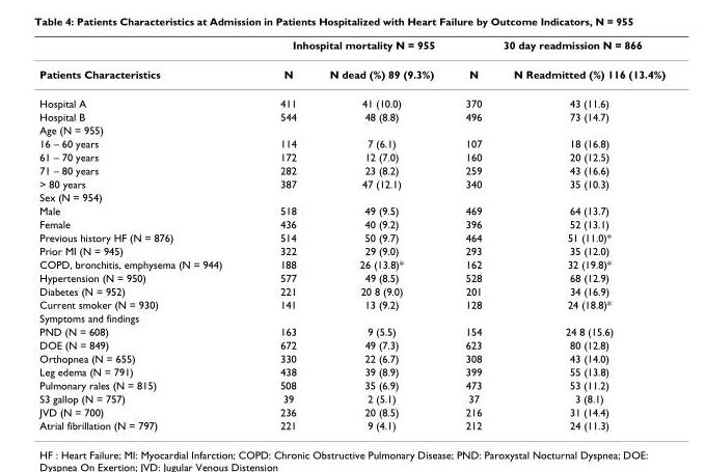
<table><thead><tr><td rowspan="2">Patients Characteristics</td><td colspan="2">Inhospital mortality N = 955</td><td colspan="2">30 day readmission N = 866</td></tr><tr><td>N</td><td>N dead (%) 89 (9.3%)</td><td>N</td><td>N Readmitted (%) 116 (13.4%)</td></tr></thead><tbody><tr><td>Hospital A</td><td>411</td><td>41 (10.0)</td><td>370</td><td>43 (11.6)</td></tr><tr><td>Hospital B</td><td>544</td><td>48 (8.8)</td><td>496</td><td>73 (14.7)</td></tr><tr><td colspan="5">Age (N = 955)</td></tr><tr><td>16 – 60 years</td><td>114</td><td>7 (6.1)</td><td>107</td><td>18 (16.8)</td></tr><tr><td>61 – 70 years</td><td>172</td><td>12 (7.0)</td><td>160</td><td>20 (12.5)</td></tr><tr><td>71 – 80 years</td><td>282</td><td>23 (8.2)</td><td>259</td><td>43 (16.6)</td></tr><tr><td>&gt; 80 years</td><td>387</td><td>47 (12.1)</td><td>340</td><td>35 (10.3)</td></tr><tr><td colspan="5">Sex (N = 954)</td></tr><tr><td>Male</td><td>518</td><td>49 (9.5)</td><td>469</td><td>64 (13.7)</td></tr><tr><td>Female</td><td>436</td><td>40 (9.2)</td><td>396</td><td>52 (13.1)</td></tr><tr><td>Previous history HF (N = 876)</td><td>514</td><td>50 (9.7)</td><td>464</td><td>51 (11.0)*</td></tr><tr><td>Prior MI (N = 945)</td><td>322</td><td>29 (9.0)</td><td>293</td><td>35 (12.0)</td></tr><tr><td>COPD, bronchitis, emphysema (N = 944)</td><td>188</td><td>26 (13.8)*</td><td>162</td><td>32 (19.8)*</td></tr><tr><td>Hypertension (N = 950)</td><td>577</td><td>49 (8.5)</td><td>528</td><td>68 (12.9)</td></tr><tr><td>Diabetes (N = 952)</td><td>221</td><td>20 8 (9.0)</td><td>201</td><td>34 (16.9)</td></tr><tr><td>Current smoker (N = 930)</td><td>141</td><td>13 (9.2)</td><td>128</td><td>24 (18.8)*</td></tr><tr><td colspan="5">Symptoms and findings</td></tr><tr><td>PND (N = 608)</td><td>163</td><td>9 (5.5)</td><td>154</td><td>24 8 (15.6)</td></tr><tr><td>DOE (N = 849)</td><td>672</td><td>49 (7.3)</td><td>623</td><td>80 (12.8)</td></tr><tr><td>Orthopnea (N = 655)</td><td>330</td><td>22 (6.7)</td><td>308</td><td>43 (14.0)</td></tr><tr><td>Leg edema (N = 791)</td><td>438</td><td>39 (8.9)</td><td>399</td><td>55 (13.8)</td></tr><tr><td>Pulmonary rales (N = 815)</td><td>508</td><td>35 (6.9)</td><td>473</td><td>53 (11.2)</td></tr><tr><td>S3 gallop (N = 757)</td><td>39</td><td>2 (5.1)</td><td>37</td><td>3 (8.1)</td></tr><tr><td>JVD (N = 700)</td><td>236</td><td>20 (8.5)</td><td>216</td><td>31 (14.4)</td></tr><tr><td>Atrial fibrillation (N = 797)</td><td>221</td><td>9 (4.1)</td><td>212</td><td>24 (11.3)</td></tr></tbody></table>